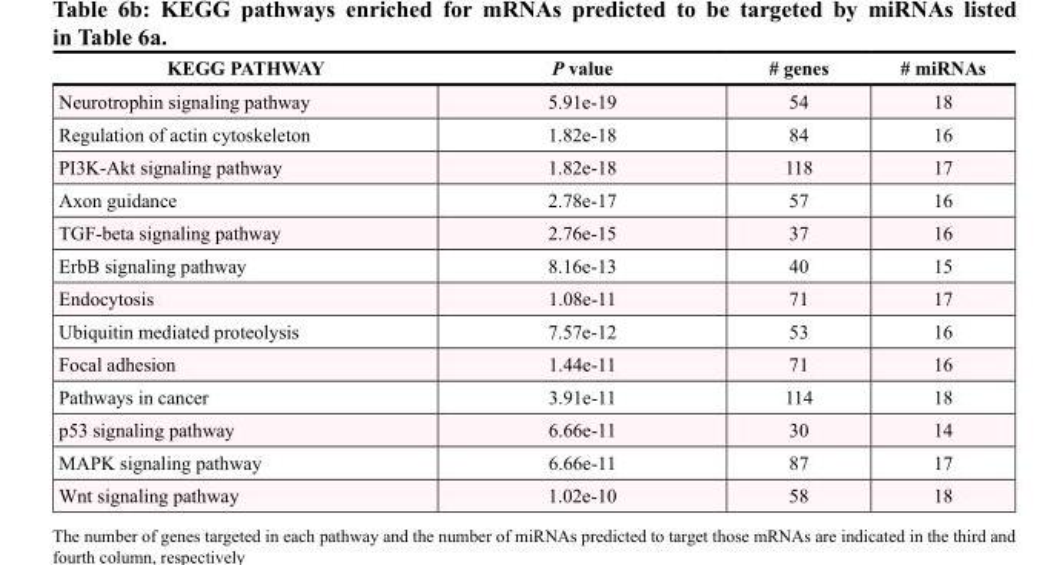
<table><thead><tr><td>KEGG PATHWAY</td><td>P value</td><td># genes</td><td># miRNAs</td></tr></thead><tbody><tr><td>Neurotrophin signaling pathway</td><td>5.91e-19</td><td>54</td><td>18</td></tr><tr><td>Regulation of actin cytoskeleton</td><td>1.82e-18</td><td>84</td><td>16</td></tr><tr><td>PI3K-Akt signaling pathway</td><td>1.82e-18</td><td>118</td><td>17</td></tr><tr><td>Axon guidance</td><td>2.78e-17</td><td>57</td><td>16</td></tr><tr><td>TGF-beta signaling pathway</td><td>2.76e-15</td><td>37</td><td>16</td></tr><tr><td>ErbB signaling pathway</td><td>8.16e-13</td><td>40</td><td>15</td></tr><tr><td>Endocytosis</td><td>1.08e-11</td><td>71</td><td>17</td></tr><tr><td>Ubiquitin mediated proteolysis</td><td>7.57e-12</td><td>53</td><td>16</td></tr><tr><td>Focal adhesion</td><td>1.44e-11</td><td>71</td><td>16</td></tr><tr><td>Pathways in cancer</td><td>3.91e-11</td><td>114</td><td>18</td></tr><tr><td>p53 signaling pathway</td><td>6.66e-11</td><td>30</td><td>14</td></tr><tr><td>MAPK signaling pathway</td><td>6.66e-11</td><td>87</td><td>17</td></tr><tr><td>Wnt signaling pathway</td><td>1.02e-10</td><td>58</td><td>18</td></tr></tbody></table>